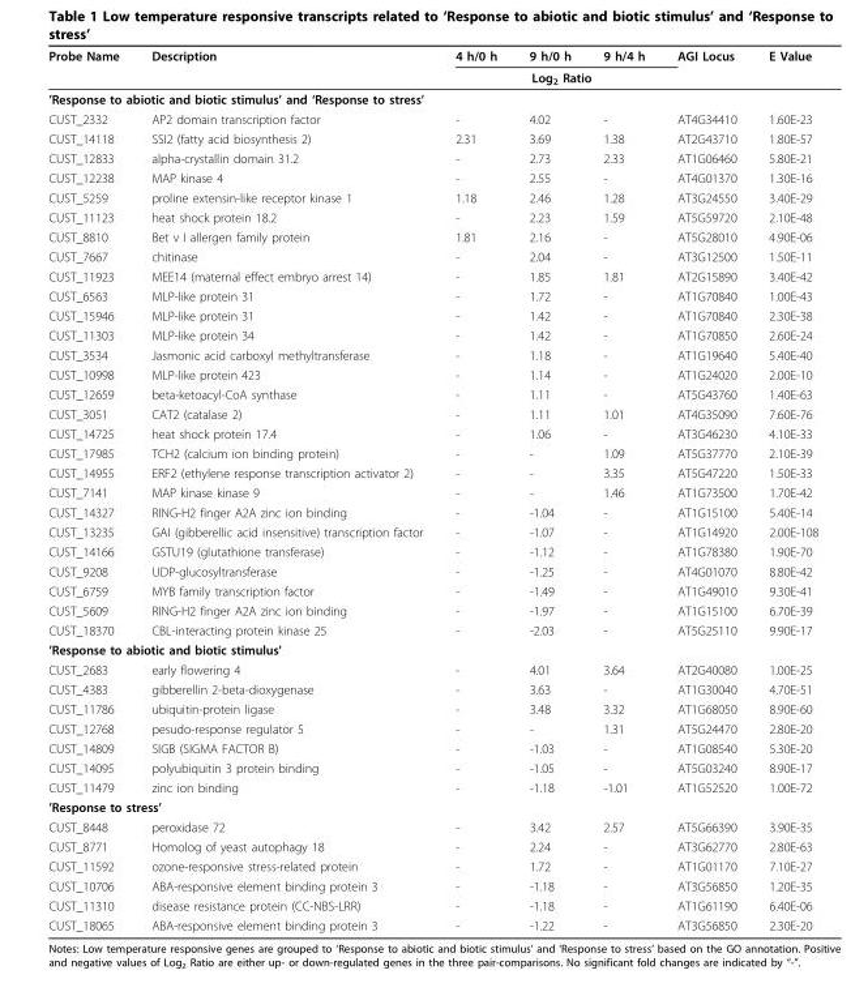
<table><thead><tr><td rowspan="2">Probe Name</td><td rowspan="2">Description</td><td>4 h/0 h</td><td>9 h/0 h</td><td>9 h/4 h</td><td rowspan="2">AGI Locus</td><td rowspan="2">E Value</td></tr><tr><td colspan="3">Log<sub>2</sub> Ratio</td></tr></thead><tbody><tr><td colspan="7">’Response to abiotic and biotic stimulus’ and ‘Response to stress’</td></tr><tr><td>CUST_2332</td><td>AP2 domain transcription factor</td><td>-</td><td>4.02</td><td>-</td><td>AT4G34410</td><td>1.60E-23</td></tr><tr><td>CUST_14118</td><td>SSI2 (fatty acid biosynthesis 2)</td><td>2.31</td><td>3.69</td><td>1.38</td><td>AT2G43710</td><td>1.80E-57</td></tr><tr><td>CUST_12833</td><td>alpha-crystallin domain 31.2</td><td>-</td><td>2.73</td><td>2.33</td><td>AT1G06460</td><td>5.80E-21</td></tr><tr><td>CUST_12238</td><td>MAP kinase 4</td><td>-</td><td>2.55</td><td>-</td><td>AT4G01370</td><td>1.30E-16</td></tr><tr><td>CUST_5259</td><td>proline extensin-like receptor kinase 1</td><td>1.18</td><td>2.46</td><td>1.28</td><td>AT3G24550</td><td>3.40E-29</td></tr><tr><td>CUST_11123</td><td>heat shock protein 18.2</td><td>-</td><td>2.23</td><td>1.59</td><td>AT5G59720</td><td>2.10E-48</td></tr><tr><td>CUST_8810</td><td>Bet v I allergen family protein</td><td>1.81</td><td>2.16</td><td>-</td><td>AT5G28010</td><td>4.90E-06</td></tr><tr><td>CUST_7667</td><td>chitinase</td><td>-</td><td>2.04</td><td>-</td><td>AT3G12500</td><td>1.50E-11</td></tr><tr><td>CUST_11923</td><td>MEE14 (maternal effect embryo arrest 14)</td><td>-</td><td>1.85</td><td>1.81</td><td>AT2G15890</td><td>3.40E-42</td></tr><tr><td>CUST_6563</td><td>MLP-like protein 31</td><td>-</td><td>1.72</td><td>-</td><td>AT1G70840</td><td>1.00E-43</td></tr><tr><td>CUST_15946</td><td>MLP-like protein 31</td><td>-</td><td>1.42</td><td>-</td><td>AT1G70840</td><td>2.30E-38</td></tr><tr><td>CUST_11303</td><td>MLP-like protein 34</td><td>-</td><td>1.42</td><td>-</td><td>AT1G70850</td><td>2.60E-24</td></tr><tr><td>CUST_3534</td><td>Jasmonic acid carboxyl methyltransferase</td><td>-</td><td>1.18</td><td>-</td><td>AT1G19640</td><td>5.40E-40</td></tr><tr><td>CUST_10998</td><td>MLP-like protein 423</td><td>-</td><td>1.14</td><td>-</td><td>AT1G24020</td><td>2.00E-10</td></tr><tr><td>CUST_12659</td><td>beta-ketoacyl-CoA synthase</td><td>-</td><td>1.11</td><td>-</td><td>AT5G43760</td><td>1.40E-63</td></tr><tr><td>CUST_3051</td><td>CAT2 (catalase 2)</td><td>-</td><td>1.11</td><td>1.01</td><td>AT4G35090</td><td>7.60E-76</td></tr><tr><td>CUST_14725</td><td>heat shock protein 17.4</td><td>-</td><td>1.06</td><td>-</td><td>AT3G46230</td><td>4.10E-33</td></tr><tr><td>CUST_17985</td><td>TCH2 (calcium ion binding protein)</td><td>-</td><td>-</td><td>1.09</td><td>AT5G37770</td><td>2.10E-39</td></tr><tr><td>CUST_14955</td><td>ERF2 (ethylene response transcription activator 2)</td><td>-</td><td>-</td><td>3.35</td><td>AT5G47220</td><td>1.50E-33</td></tr><tr><td>CUST_7141</td><td>MAP kinase kinase 9</td><td>-</td><td>-</td><td>1.46</td><td>AT1G73500</td><td>1.70E-42</td></tr><tr><td>CUST_14327</td><td>RING-H2 finger A2A zinc ion binding</td><td>-</td><td>-1.04</td><td>-</td><td>AT1G15100</td><td>5.40E-14</td></tr><tr><td>CUST_13235</td><td>GAI (gibberellic acid insensitive) transcription factor</td><td>-</td><td>-1.07</td><td>-</td><td>AT1G14920</td><td>2.00E-108</td></tr><tr><td>CUST_14166</td><td>GSTU19 (glutathione transferase)</td><td>-</td><td>-1.12</td><td>-</td><td>AT1G78380</td><td>1.90E-70</td></tr><tr><td>CUST_9208</td><td>UDP-glucosyltransferase</td><td>-</td><td>-1.25</td><td>-</td><td>AT4G01070</td><td>8.80E-42</td></tr><tr><td>CUST_6759</td><td>MYB family transcription factor</td><td>-</td><td>-1.49</td><td>-</td><td>AT1G49010</td><td>9.30E-41</td></tr><tr><td>CUST_5609</td><td>RING-H2 finger A2A zinc ion binding</td><td>-</td><td>-1.97</td><td>-</td><td>AT1G15100</td><td>6.70E-39</td></tr><tr><td>CUST_18370</td><td>CBL-interacting protein kinase 25</td><td>-</td><td>-2.03</td><td>-</td><td>AT5G25110</td><td>9.90E-17</td></tr><tr><td colspan="7">’Response to abiotic and biotic stimulus’</td></tr><tr><td>CUST_2683</td><td>early flowering 4</td><td>-</td><td>4.01</td><td>3.64</td><td>AT2G40080</td><td>1.00E-25</td></tr><tr><td>CUST_4383</td><td>gibberellin 2-beta-dioxygenase</td><td>-</td><td>3.63</td><td>-</td><td>AT1G30040</td><td>4.70E-51</td></tr><tr><td>CUST_11786</td><td>ubiquitin-protein ligase</td><td>-</td><td>3.48</td><td>3.32</td><td>AT1G68050</td><td>8.90E-60</td></tr><tr><td>CUST_12768</td><td>pesudo-response regulator 5</td><td>-</td><td>-</td><td>1.31</td><td>AT5G24470</td><td>2.80E-20</td></tr><tr><td>CUST_14809</td><td>SIGB (SIGMA FACTOR B)</td><td>-</td><td>-1.03</td><td>-</td><td>AT1G08540</td><td>5.30E-20</td></tr><tr><td>CUST_14095</td><td>polyubiquitin 3 protein binding</td><td>-</td><td>-1.05</td><td>-</td><td>AT5G03240</td><td>8.90E-17</td></tr><tr><td>CUST_11479</td><td>zinc ion binding</td><td>-</td><td>-1.18</td><td>-1.01</td><td>AT1G52520</td><td>1.00E-72</td></tr><tr><td colspan="7">’Response to stress’</td></tr><tr><td>CUST_8448</td><td>peroxidase 72</td><td>-</td><td>3.42</td><td>2.57</td><td>AT5G66390</td><td>3.90E-35</td></tr><tr><td>CUST_8771</td><td>Homolog of yeast autophagy 18</td><td>-</td><td>2.24</td><td>-</td><td>AT3G62770</td><td>2.80E-63</td></tr><tr><td>CUST_11592</td><td>ozone-responsive stress-related protein</td><td>-</td><td>1.72</td><td>-</td><td>AT1G01170</td><td>7.10E-27</td></tr><tr><td>CUST_10706</td><td>ABA-responsive element binding protein 3</td><td>-</td><td>-1.18</td><td>-</td><td>AT3G56850</td><td>1.20E-35</td></tr><tr><td>CUST_11310</td><td>disease resistance protein (CC-NBS-LRR)</td><td>-</td><td>-1.18</td><td>-</td><td>AT1G61190</td><td>6.40E-06</td></tr><tr><td>CUST_18065</td><td>ABA-responsive element binding protein 3</td><td>-</td><td>-1.22</td><td>-</td><td>AT3G56850</td><td>2.30E-20</td></tr></tbody></table>